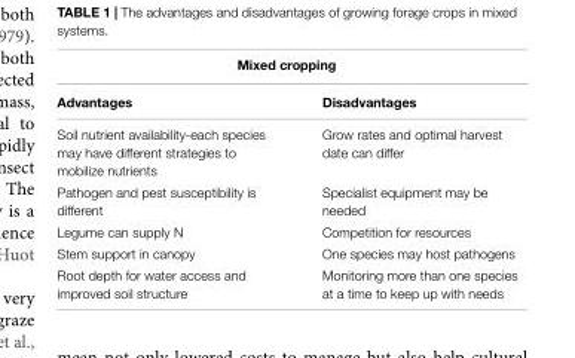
<table><thead><tr><td colspan="2">Mixed cropping</td></tr><tr><td>Advantages</td><td>Disadvantages</td></tr></thead><tbody><tr><td>Soil nutrient availability-each species may have different strategies to mobilize nutrients</td><td>Grow rates and optimal harvest date can differ</td></tr><tr><td>Pathogen and pest susceptibility is different</td><td>Specialist equipment may be needed</td></tr><tr><td>Legume can supply N</td><td>Competition for resources</td></tr><tr><td>Stem support in canopy</td><td>One species may host pathogens</td></tr><tr><td>Root depth for water access and improved soil structure</td><td>Monitoring more than one species at a time to keep up with needs</td></tr></tbody></table>